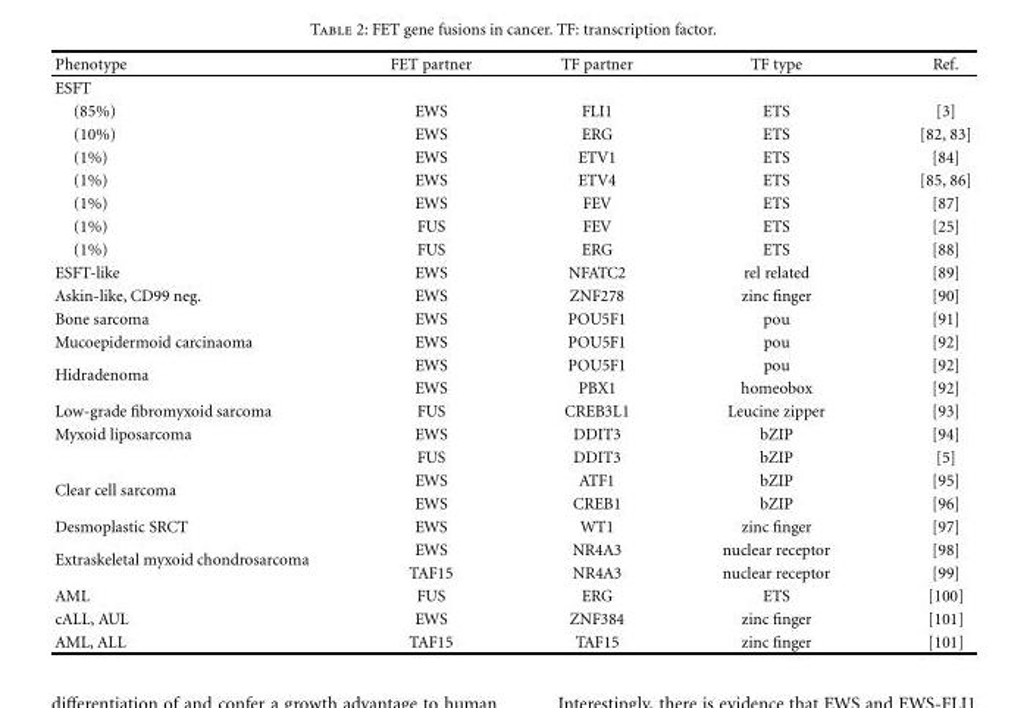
<table><thead><tr><td>Phenotype</td><td>FET partner</td><td>TF partner</td><td>TF type</td><td>Ref.</td></tr></thead><tbody><tr><td colspan="5">ESFT</td></tr><tr><td>(85%)</td><td>EWS</td><td>FLI1</td><td>ETS</td><td>[3]</td></tr><tr><td>(10%)</td><td>EWS</td><td>ERG</td><td>ETS</td><td>[82, 83]</td></tr><tr><td>(1%)</td><td>EWS</td><td>ETV1</td><td>ETS</td><td>[84]</td></tr><tr><td>(1%)</td><td>EWS</td><td>ETV4</td><td>ETS</td><td>[85, 86]</td></tr><tr><td>(1%)</td><td>EWS</td><td>FEV</td><td>ETS</td><td>[87]</td></tr><tr><td>(1%)</td><td>FUS</td><td>FEV</td><td>ETS</td><td>[25]</td></tr><tr><td>(1%)</td><td>FUS</td><td>ERG</td><td>ETS</td><td>[88]</td></tr><tr><td>ESFT-like</td><td>EWS</td><td>NFATC2</td><td>rel related</td><td>[89]</td></tr><tr><td>Askin-like, CD99 neg.</td><td>EWS</td><td>ZNF278</td><td>zinc finger</td><td>[90]</td></tr><tr><td>Bone sarcoma</td><td>EWS</td><td>POU5F1</td><td>pou</td><td>[91]</td></tr><tr><td>Mucoepidermoid carcinaoma</td><td>EWS</td><td>POU5F1</td><td>pou</td><td>[92]</td></tr><tr><td rowspan="2">Hidradenoma</td><td>EWS</td><td>POU5F1</td><td>pou</td><td>[92]</td></tr><tr><td>EWS</td><td>PBX1</td><td>homeobox</td><td>[92]</td></tr><tr><td>Low-grade fibromyxoid sarcoma</td><td>FUS</td><td>CREB3L1</td><td>Leucine zipper</td><td>[93]</td></tr><tr><td rowspan="2">Myxoid liposarcoma</td><td>EWS</td><td>DDIT3</td><td>bZIP</td><td>[94]</td></tr><tr><td>FUS</td><td>DDIT3</td><td>bZIP</td><td>[5]</td></tr><tr><td rowspan="2">Clear cell sarcoma</td><td>EWS</td><td>ATF1</td><td>bZIP</td><td>[95]</td></tr><tr><td>EWS</td><td>CREB1</td><td>bZIP</td><td>[96]</td></tr><tr><td>Desmoplastic SRCT</td><td>EWS</td><td>WT1</td><td>zinc finger</td><td>[97]</td></tr><tr><td rowspan="2">Extraskeletal myxoid chondrosarcoma</td><td>EWS</td><td>NR4A3</td><td>nuclear receptor</td><td>[98]</td></tr><tr><td>TAF15</td><td>NR4A3</td><td>nuclear receptor</td><td>[99]</td></tr><tr><td>AML</td><td>FUS</td><td>ERG</td><td>ETS</td><td>[100]</td></tr><tr><td>cALL, AUL</td><td>EWS</td><td>ZNF384</td><td>zinc finger</td><td>[101]</td></tr><tr><td>AML, ALL</td><td>TAF15</td><td>TAF15</td><td>zinc finger</td><td>[101]</td></tr></tbody></table>